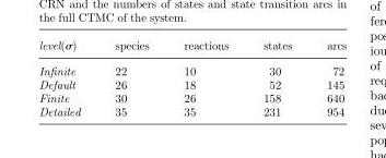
<table><thead><tr><td>level(σ)</td><td>species</td><td>reactions</td><td>states</td><td>arcs</td></tr></thead><tbody><tr><td>Infinite</td><td>22</td><td>10</td><td>30</td><td>72</td></tr><tr><td>Default</td><td>26</td><td>18</td><td>52</td><td>145</td></tr><tr><td>Finite</td><td>30</td><td>26</td><td>158</td><td>640</td></tr><tr><td>Detailed</td><td>35</td><td>35</td><td>231</td><td>954</td></tr></tbody></table>